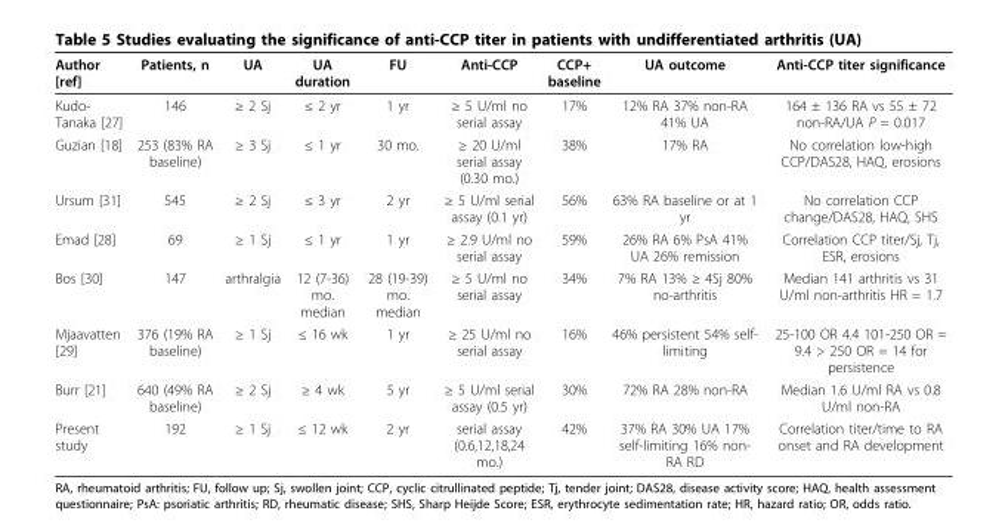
<table><thead><tr><td>Author [ref]</td><td>Patients, n</td><td>UA</td><td>UA duration</td><td>FU</td><td>Anti-CCP</td><td>CCP+ baseline</td><td>UA outcome</td><td>Anti-CCP titer significance</td></tr></thead><tbody><tr><td>Kudo- Tanaka [27]</td><td>146</td><td>≥ 2 Sj</td><td>≤ 2 yr</td><td>1 yr</td><td>≥ 5 U/ml no serial assay</td><td>17%</td><td>12% RA 37% non-RA 41% UA</td><td>164 ± 136 RA vs 55 ± 72 non-RA/UA P = 0.017</td></tr><tr><td>Guzian [18]</td><td>253 (83% RA baseline)</td><td>≥ 3 Sj</td><td>≤ 1 yr</td><td>30 mo.</td><td>≥ 20 U/ml serial assay (0.30 mo.)</td><td>38%</td><td>17% RA</td><td>No correlation low-high CCP/DAS28, HAQ, erosions</td></tr><tr><td>Ursum [31]</td><td>545</td><td>≥ 2 Sj</td><td>≤ 3 yr</td><td>2 yr</td><td>≥ 5 U/ml serial assay (0.1 yr)</td><td>56%</td><td>63% RA baseline or at 1 yr</td><td>No correlation CCP change/DAS28, HAQ, SHS</td></tr><tr><td>Emad [28]</td><td>69</td><td>≥ 1 Sj</td><td>≤ 1 yr</td><td>1 yr</td><td>≥ 2.9 U/ml no serial assay</td><td>59%</td><td>26% RA 6% PsA 41% UA 26% remission</td><td>Correlation CCP titer/Sj, Tj, ESR, erosions</td></tr><tr><td>Bos [30]</td><td>147</td><td>arthralgia</td><td>12 (7-36) mo. median</td><td>28 (19-39) mo. median</td><td>≥ 5 U/ml no serial assay</td><td>34%</td><td>7% RA 13% ≥ 4Sj 80% no-arthritis</td><td>Median 141 arthritis vs 31 U/ml non-arthritis HR = 1.7</td></tr><tr><td>Mjaavatten [29]</td><td>376 (19% RA baseline)</td><td>≥ 1 Sj</td><td>≤ 16 wk</td><td>1 yr</td><td>≥ 25 U/ml no serial assay</td><td>16%</td><td>46% persistent 54% self- limiting</td><td>25-100 OR 4.4 101-250 OR = 9.4 &gt; 250 OR = 14 for persistence</td></tr><tr><td>Burr [21]</td><td>640 (49% RA baseline)</td><td>≥ 2 Sj</td><td>≥ 4 wk</td><td>5 yr</td><td>≥ 5 U/ml serial assay (0.5 yr)</td><td>30%</td><td>72% RA 28% non-RA</td><td>Median 1.6 U/ml RA vs 0.8 U/ml non-RA</td></tr><tr><td>Present study</td><td>192</td><td>≥ 1 Sj</td><td>≤ 12 wk</td><td>2 yr</td><td>serial assay (0.6,12,18,24 mo.)</td><td>42%</td><td>37% RA 30% UA 17% self-limiting 16% non- RA RD</td><td>Correlation titer/time to RA onset and RA development</td></tr></tbody></table>